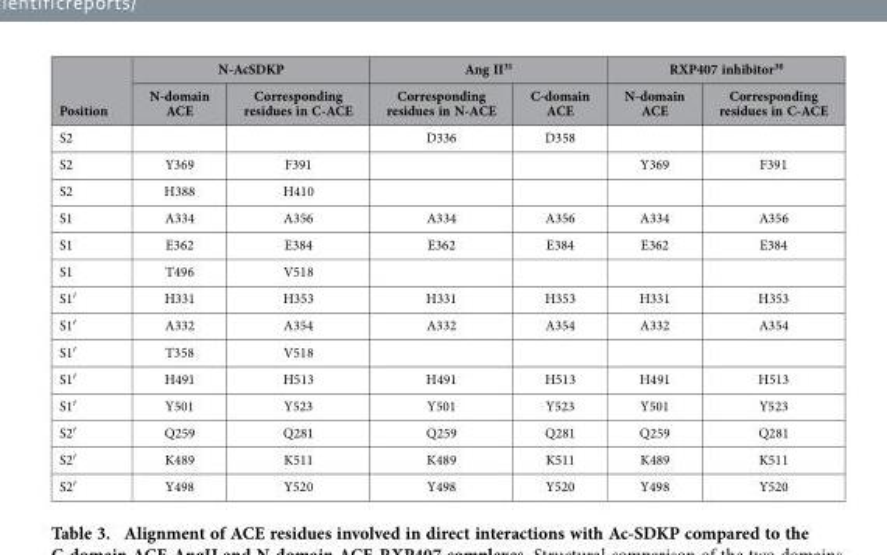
<table><thead><tr><td rowspan="2">Position</td><td colspan="2">N-AcSDKP</td><td colspan="2">Ang II<sup>31</sup></td><td colspan="2">RXP407 inhibitor<sup>30</sup></td></tr><tr><td>N-domain ACE</td><td>Corresponding residues in C-ACE</td><td>Corresponding residues in N-ACE</td><td>C-domain ACE</td><td>N-domain ACE</td><td>Corresponding residues in C-ACE</td></tr></thead><tbody><tr><td>S2</td><td></td><td></td><td>D336</td><td>D358</td><td></td><td></td></tr><tr><td>S2</td><td>Y369</td><td>F391</td><td></td><td></td><td>Y369</td><td>F391</td></tr><tr><td>S2</td><td>H388</td><td>H410</td><td></td><td></td><td></td><td></td></tr><tr><td>S1</td><td>A334</td><td>A356</td><td>A334</td><td>A356</td><td>A334</td><td>A356</td></tr><tr><td>S1</td><td>E362</td><td>E384</td><td>E362</td><td>E384</td><td>E362</td><td>E384</td></tr><tr><td>S1</td><td>T496</td><td>V518</td><td></td><td></td><td></td><td></td></tr><tr><td>S1′</td><td>H331</td><td>H353</td><td>H331</td><td>H353</td><td>H331</td><td>H353</td></tr><tr><td>S1′</td><td>A332</td><td>A354</td><td>A332</td><td>A354</td><td>A332</td><td>A354</td></tr><tr><td>S1′</td><td>T358</td><td>V518</td><td></td><td></td><td></td><td></td></tr><tr><td>S1′</td><td>H491</td><td>H513</td><td>H491</td><td>H513</td><td>H491</td><td>H513</td></tr><tr><td>S1′</td><td>Y501</td><td>Y523</td><td>Y501</td><td>Y523</td><td>Y501</td><td>Y523</td></tr><tr><td>S2′</td><td>Q259</td><td>Q281</td><td>Q259</td><td>Q281</td><td>Q259</td><td>Q281</td></tr><tr><td>S2′</td><td>K489</td><td>K511</td><td>K489</td><td>K511</td><td>K489</td><td>K511</td></tr><tr><td>S2′</td><td>Y498</td><td>Y520</td><td>Y498</td><td>Y520</td><td>Y498</td><td>Y520</td></tr></tbody></table>